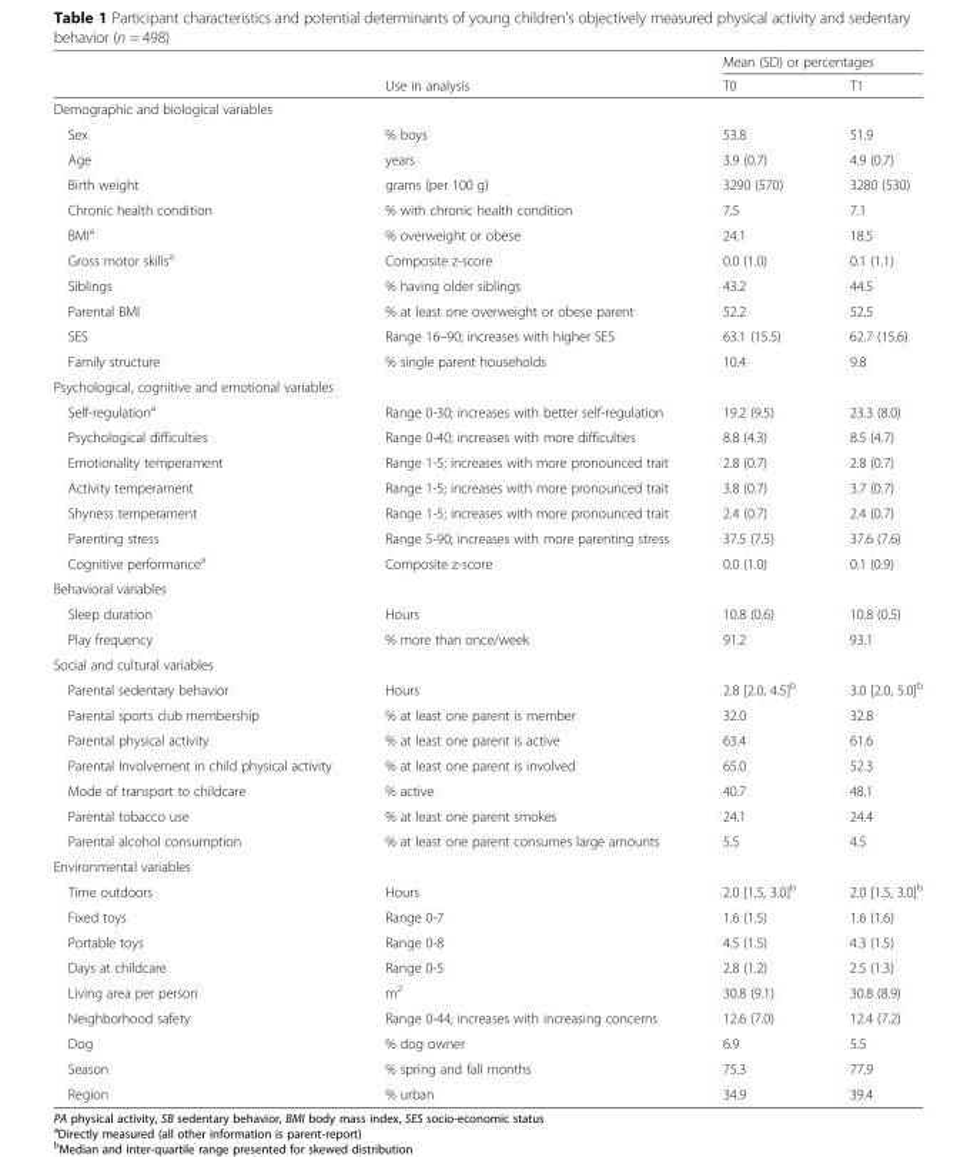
<table><thead><tr><td rowspan="2"></td><td rowspan="2">Use in analysis</td><td colspan="2">Mean (SD) or percentages</td></tr><tr><td>T0</td><td>T1</td></tr></thead><tbody><tr><td colspan="4">Demographic and biological variables</td></tr><tr><td>Sex</td><td>% boys</td><td>53.8</td><td>51.9</td></tr><tr><td>Age</td><td>years</td><td>3.9 (0.7)</td><td>4.9 (0.7)</td></tr><tr><td>Birth weight</td><td>grams (per 100 g)</td><td>3290 (570)</td><td>3280 (530)</td></tr><tr><td>Chronic health condition</td><td>% with chronic health condition</td><td>7.5</td><td>7.1</td></tr><tr><td>BMI<sup>a</sup></td><td>% overweight or obese</td><td>24.1</td><td>18.5</td></tr><tr><td>Gross motor skills<sup>a</sup></td><td>Composite z-score</td><td>0.0 (1.0)</td><td>0.1 (1.1)</td></tr><tr><td>Siblings</td><td>% having older siblings</td><td>43.2</td><td>44.5</td></tr><tr><td>Parental BMI</td><td>% at least one overweight or obese parent</td><td>52.2</td><td>52.5</td></tr><tr><td>SES</td><td>Range 16–90; increases with higher SES</td><td>63.1 (15.5)</td><td>62.7 (15.6)</td></tr><tr><td>Family structure</td><td>% single parent households</td><td>10.4</td><td>9.8</td></tr><tr><td colspan="4">Psychological, cognitive and emotional variables</td></tr><tr><td>Self-regulation<sup>a</sup></td><td>Range 0-30; increases with better self-regulation</td><td>19.2 (9.5)</td><td>23.3 (8.0)</td></tr><tr><td>Psychological difficulties</td><td>Range 0-40; increases with more difficulties</td><td>8.8 (4.3)</td><td>8.5 (4.7)</td></tr><tr><td>Emotionality temperament</td><td>Range 1-5; increases with more pronounced trait</td><td>2.8 (0.7)</td><td>2.8 (0.7)</td></tr><tr><td>Activity temperament</td><td>Range 1-5; increases with more pronounced trait</td><td>3.8 (0.7)</td><td>3.7 (0.7)</td></tr><tr><td>Shyness temperament</td><td>Range 1-5; increases with more pronounced trait</td><td>2.4 (0.7)</td><td>2.4 (0.7)</td></tr><tr><td>Parenting stress</td><td>Range 5-90; increases with more parenting stress</td><td>37.5 (7.5)</td><td>37.6 (7.6)</td></tr><tr><td>Cognitive performance<sup>a</sup></td><td>Composite z-score</td><td>0.0 (1.0)</td><td>0.1 (0.9)</td></tr><tr><td colspan="4">Behavioral variables</td></tr><tr><td>Sleep duration</td><td>Hours</td><td>10.8 (0.6)</td><td>10.8 (0.5)</td></tr><tr><td>Play frequency</td><td>% more than once/week</td><td>91.2</td><td>93.1</td></tr><tr><td colspan="4">Social and cultural variables</td></tr><tr><td>Parental sedentary behavior</td><td>Hours</td><td>2.8 [2.0, 4.5]<sup>b</sup></td><td>3.0 [2.0, 5.0]<sup>b</sup></td></tr><tr><td>Parental sports club membership</td><td>% at least one parent is member</td><td>32.0</td><td>32.8</td></tr><tr><td>Parental physical activity</td><td>% at least one parent is active</td><td>63.4</td><td>61.6</td></tr><tr><td>Parental Involvement in child physical activity</td><td>% at least one parent is involved</td><td>65.0</td><td>52.3</td></tr><tr><td>Mode of transport to childcare</td><td>% active</td><td>40.7</td><td>48.1</td></tr><tr><td>Parental tobacco use</td><td>% at least one parent smokes</td><td>24.1</td><td>24.4</td></tr><tr><td>Parental alcohol consumption</td><td>% at least one parent consumes large amounts</td><td>5.5</td><td>4.5</td></tr><tr><td colspan="4">Environmental variables</td></tr><tr><td>Time outdoors</td><td>Hours</td><td>2.0 [1.5, 3.0]<sup>b</sup></td><td>2.0 [1.5, 3.0]<sup>b</sup></td></tr><tr><td>Fixed toys</td><td>Range 0-7</td><td>1.6 (1.5)</td><td>1.6 (1.6)</td></tr><tr><td>Portable toys</td><td>Range 0-8</td><td>4.5 (1.5)</td><td>4.3 (1.5)</td></tr><tr><td>Days at childcare</td><td>Range 0-5</td><td>2.8 (1.2)</td><td>2.5 (1.3)</td></tr><tr><td>Living area per person</td><td>m<sup>2</sup></td><td>30.8 (9.1)</td><td>30.8 (8.9)</td></tr><tr><td>Neighborhood safety</td><td>Range 0-44; increases with increasing concerns</td><td>12.6 (7.0)</td><td>12.4 (7.2)</td></tr><tr><td>Dog</td><td>% dog owner</td><td>6.9</td><td>5.5</td></tr><tr><td>Season</td><td>% spring and fall months</td><td>75.3</td><td>77.9</td></tr><tr><td>Region</td><td>% urban</td><td>34.9</td><td>39.4</td></tr></tbody></table>